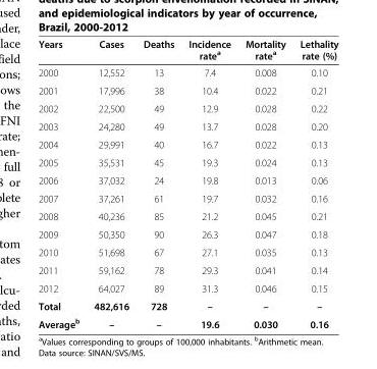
<table><thead><tr><td>Years</td><td>Cases</td><td>Deaths</td><td>Incidence rate<sup>a</sup></td><td>Mortality rate<sup>a</sup></td><td>Lethality rate (%)</td></tr></thead><tbody><tr><td>2000</td><td>12,552</td><td>13</td><td>7.4</td><td>0.008</td><td>0.10</td></tr><tr><td>2001</td><td>17,996</td><td>38</td><td>10.4</td><td>0.022</td><td>0.21</td></tr><tr><td>2002</td><td>22,500</td><td>49</td><td>12.9</td><td>0.028</td><td>0.22</td></tr><tr><td>2003</td><td>24,280</td><td>49</td><td>13.7</td><td>0.028</td><td>0.20</td></tr><tr><td>2004</td><td>29,991</td><td>40</td><td>16.7</td><td>0.022</td><td>0.13</td></tr><tr><td>2005</td><td>35,531</td><td>45</td><td>19.3</td><td>0.024</td><td>0.13</td></tr><tr><td>2006</td><td>37,032</td><td>24</td><td>19.8</td><td>0.013</td><td>0.06</td></tr><tr><td>2007</td><td>37,261</td><td>61</td><td>19.7</td><td>0.032</td><td>0.16</td></tr><tr><td>2008</td><td>40,236</td><td>85</td><td>21.2</td><td>0.045</td><td>0.21</td></tr><tr><td>2009</td><td>50,350</td><td>90</td><td>26.3</td><td>0.047</td><td>0.18</td></tr><tr><td>2010</td><td>51,698</td><td>67</td><td>27.1</td><td>0.035</td><td>0.13</td></tr><tr><td>2011</td><td>59,162</td><td>78</td><td>29.3</td><td>0.041</td><td>0.14</td></tr><tr><td>2012</td><td>64,027</td><td>89</td><td>31.3</td><td>0.046</td><td>0.15</td></tr><tr><td>Total</td><td>482,616</td><td>728</td><td>–</td><td>–</td><td>–</td></tr><tr><td>Average<sup>b</sup></td><td>–</td><td>–</td><td>19.6</td><td>0.030</td><td>0.16</td></tr></tbody></table>